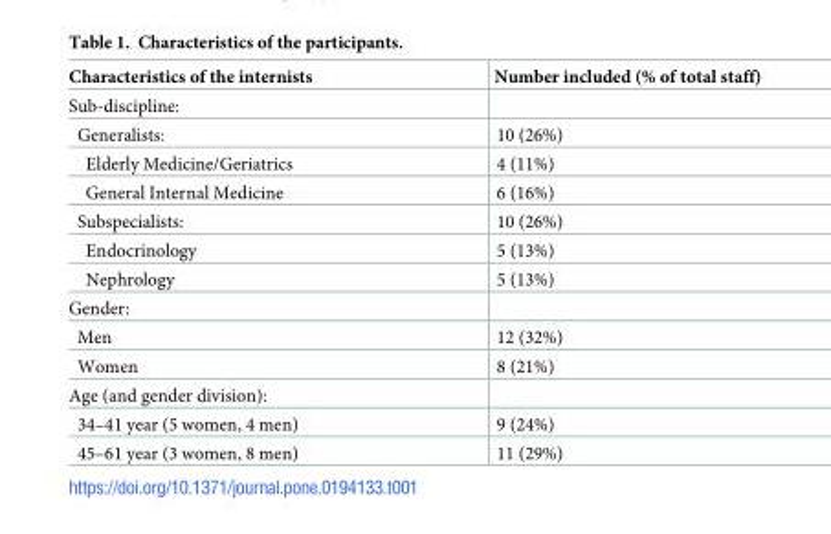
<table><thead><tr><td>Characteristics of the internists</td><td>Number included (% of total staff)</td></tr></thead><tbody><tr><td colspan="2">Sub-discipline:</td></tr><tr><td>Generalists:</td><td>10 (26%)</td></tr><tr><td>Elderly Medicine/Geriatrics</td><td>4 (11%)</td></tr><tr><td>General Internal Medicine</td><td>6 (16%)</td></tr><tr><td>Subspecialists:</td><td>10 (26%)</td></tr><tr><td>Endocrinology</td><td>5 (13%)</td></tr><tr><td>Nephrology</td><td>5 (13%)</td></tr><tr><td colspan="2">Gender:</td></tr><tr><td>Men</td><td>12 (32%)</td></tr><tr><td>Women</td><td>8 (21%)</td></tr><tr><td colspan="2">Age (and gender division):</td></tr><tr><td>34–41 year (5 women, 4 men)</td><td>9 (24%)</td></tr><tr><td>45–61 year (3 women, 8 men)</td><td>11 (29%)</td></tr></tbody></table>